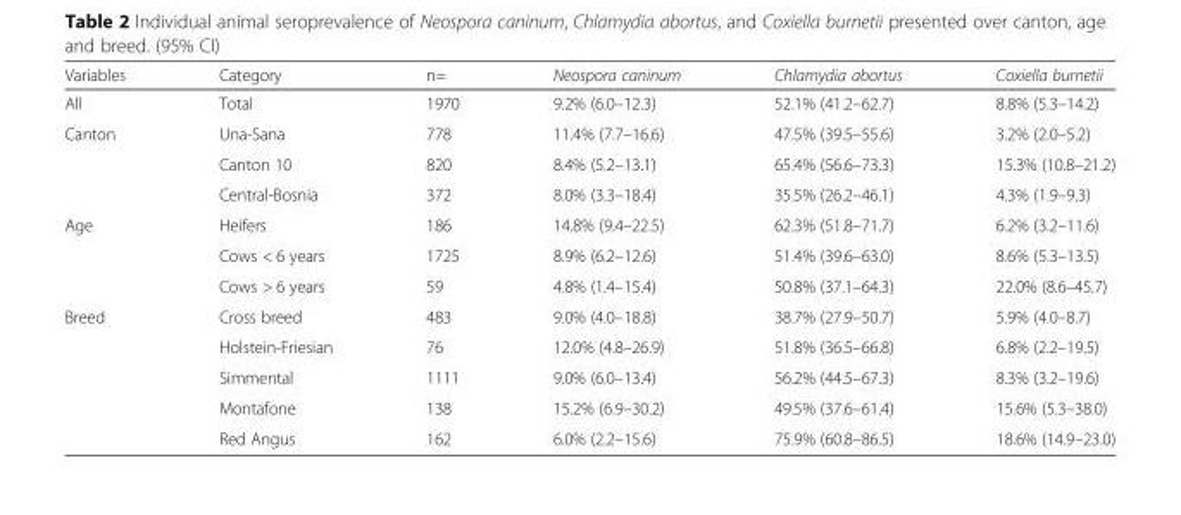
<table><thead><tr><td>Variables</td><td>Category</td><td>n=</td><td>Neospora caninum</td><td>Chlamydia abortus</td><td>Coxiella burnetii</td></tr></thead><tbody><tr><td>All</td><td>Total</td><td>1970</td><td>9.2% (6.0–12.3)</td><td>52.1% (41.2–62.7)</td><td>8.8% (5.3–14.2)</td></tr><tr><td rowspan="3">Canton</td><td>Una-Sana</td><td>778</td><td>11.4% (7.7–16.6)</td><td>47.5% (39.5–55.6)</td><td>3.2% (2.0–5.2)</td></tr><tr><td>Canton 10</td><td>820</td><td>8.4% (5.2–13.1)</td><td>65.4% (56.6–73.3)</td><td>15.3% (10.8–21.2)</td></tr><tr><td>Central-Bosnia</td><td>372</td><td>8.0% (3.3–18.4)</td><td>35.5% (26.2–46.1)</td><td>4.3% (1.9–9.3)</td></tr><tr><td rowspan="3">Age</td><td>Heifers</td><td>186</td><td>14.8% (9.4–22.5)</td><td>62.3% (51.8–71.7)</td><td>6.2% (3.2–11.6)</td></tr><tr><td>Cows &lt; 6 years</td><td>1725</td><td>8.9% (6.2–12.6)</td><td>51.4% (39.6–63.0)</td><td>8.6% (5.3–13.5)</td></tr><tr><td>Cows &gt; 6 years</td><td>59</td><td>4.8% (1.4–15.4)</td><td>50.8% (37.1–64.3)</td><td>22.0% (8.6–45.7)</td></tr><tr><td rowspan="5">Breed</td><td>Cross breed</td><td>483</td><td>9.0% (4.0–18.8)</td><td>38.7% (27.9–50.7)</td><td>5.9% (4.0–8.7)</td></tr><tr><td>Holstein-Friesian</td><td>76</td><td>12.0% (4.8–26.9)</td><td>51.8% (36.5–66.8)</td><td>6.8% (2.2–19.5)</td></tr><tr><td>Simmental</td><td>1111</td><td>9.0% (6.0–13.4)</td><td>56.2% (44.5–67.3)</td><td>8.3% (3.2–19.6)</td></tr><tr><td>Montafone</td><td>138</td><td>15.2% (6.9–30.2)</td><td>49.5% (37.6–61.4)</td><td>15.6% (5.3–38.0)</td></tr><tr><td>Red Angus</td><td>162</td><td>6.0% (2.2–15.6)</td><td>75.9% (60.8–86.5)</td><td>18.6% (14.9–23.0)</td></tr></tbody></table>